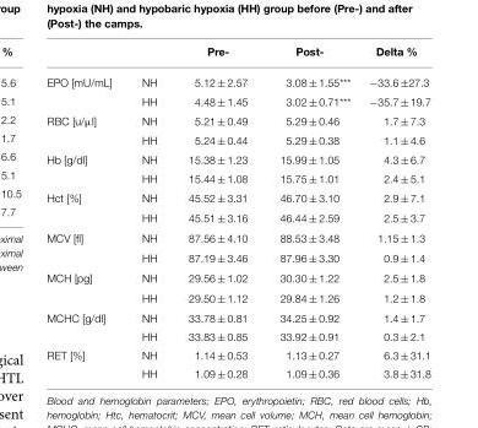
<table><thead><tr><td></td><td></td><td>Pre-</td><td>Post-</td><td>Delta %</td></tr></thead><tbody><tr><td rowspan="2">EPO [mU/mL]</td><td>NH</td><td>5.12 ± 2.57</td><td>3.08 ± 1.55***</td><td>−33.6 ±27.3</td></tr><tr><td>HH</td><td>4.48 ± 1.45</td><td>3.02 ± 0.71***</td><td>−35.7 ± 19.7</td></tr><tr><td rowspan="2">RBC [u/µl]</td><td>NH</td><td>5.21 ± 0.49</td><td>5.29 ± 0.46</td><td>1.7 ± 7.3</td></tr><tr><td>HH</td><td>5.24 ± 0.44</td><td>5.29 ± 0.38</td><td>1.1 ± 4.6</td></tr><tr><td rowspan="2">Hb [g/dl]</td><td>NH</td><td>15.38 ± 1.23</td><td>15.99 ± 1.05</td><td>4.3 ± 6.7</td></tr><tr><td>HH</td><td>15.44 ± 1.08</td><td>15.75 ± 1.01</td><td>2.4 ± 5.1</td></tr><tr><td rowspan="2">Hct [%]</td><td>NH</td><td>45.52 ± 3.31</td><td>46.70 ± 3.10</td><td>2.9 ± 7.1</td></tr><tr><td>HH</td><td>45.51 ± 3.16</td><td>46.44 ± 2.59</td><td>2.5 ± 3.7</td></tr><tr><td rowspan="2">MCV [fl]</td><td>NH</td><td>87.56 ± 4.10</td><td>88.53 ± 3.48</td><td>1.15 ± 1.3</td></tr><tr><td>HH</td><td>87.19 ± 3.46</td><td>87.96 ± 3.30</td><td>0.9 ± 1.4</td></tr><tr><td rowspan="2">MCH [pg]</td><td>NH</td><td>29.56 ± 1.02</td><td>30.30 ± 1.22</td><td>2.5 ± 1.8</td></tr><tr><td>HH</td><td>29.50 ± 1.12</td><td>29.84 ± 1.26</td><td>1.2 ± 1.8</td></tr><tr><td rowspan="2">MCHC [g/dl]</td><td>NH</td><td>33.78 ± 0.81</td><td>34.25 ± 0.92</td><td>1.4 ± 1.7</td></tr><tr><td>HH</td><td>33.83 ± 0.85</td><td>33.92 ± 0.91</td><td>0.3 ± 2.1</td></tr><tr><td rowspan="2">RET [%]</td><td>NH</td><td>1.14 ± 0.53</td><td>1.13 ± 0.27</td><td>6.3 ± 31.1</td></tr><tr><td>HH</td><td>1.09 ± 0.28</td><td>1.09 ± 0.36</td><td>3.8 ± 31.8</td></tr></tbody></table>